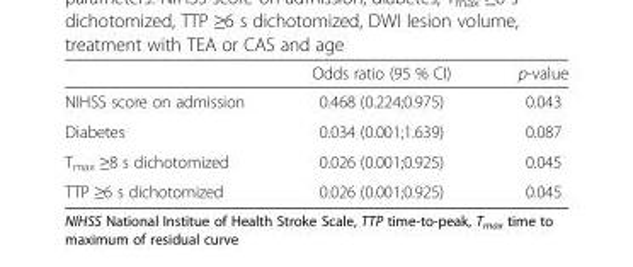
<table><thead><tr><td></td><td>Odds ratio (95 % CI)</td><td>p-value</td></tr></thead><tbody><tr><td>NIHSS score on admission</td><td>0.468 (0.224;0.975)</td><td>0.043</td></tr><tr><td>Diabetes</td><td>0.034 (0.001;1.639)</td><td>0.087</td></tr><tr><td>T<sub>max</sub> ≥8 s dichotomized</td><td>0.026 (0.001;0.925)</td><td>0.045</td></tr><tr><td>TTP ≥6 s dichotomized</td><td>0.026 (0.001;0.925)</td><td>0.045</td></tr></tbody></table>